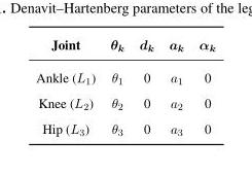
<table><thead><tr><td>Joint</td><td>θ<sub>k</sub></td><td>d<sub>k</sub></td><td>a<sub>k</sub></td><td>α<sub>k</sub></td></tr></thead><tbody><tr><td>Ankle (L<sub>1</sub>)</td><td>θ<sub>1</sub></td><td>0</td><td>a<sub>1</sub></td><td>0</td></tr><tr><td>Knee (L<sub>2</sub>)</td><td>θ<sub>2</sub></td><td>0</td><td>a<sub>2</sub></td><td>0</td></tr><tr><td>Hip (L<sub>3</sub>)</td><td>θ<sub>3</sub></td><td>0</td><td>a<sub>3</sub></td><td>0</td></tr></tbody></table>